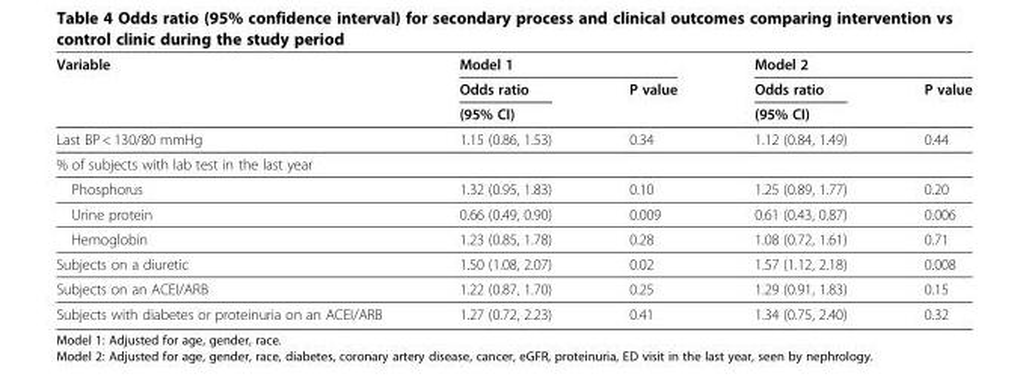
<table><thead><tr><td rowspan="2">Variable</td><td colspan="2">Model 1</td><td colspan="2">Model 2</td></tr><tr><td>Odds ratio</td><td>P value</td><td>Odds ratio</td><td>P value</td></tr></thead><tbody><tr><td></td><td>(95% CI)</td><td></td><td>(95% CI)</td><td></td></tr><tr><td>Last BP &lt; 130/80 mmHg</td><td>1.15 (0.86, 1.53)</td><td>0.34</td><td>1.12 (0.84, 1.49)</td><td>0.44</td></tr><tr><td colspan="5">% of subjects with lab test in the last year</td></tr><tr><td>Phosphorus</td><td>1.32 (0.95, 1.83)</td><td>0.10</td><td>1.25 (0.89, 1.77)</td><td>0.20</td></tr><tr><td>Urine protein</td><td>0.66 (0.49, 0.90)</td><td>0.009</td><td>0.61 (0.43, 0.87)</td><td>0.006</td></tr><tr><td>Hemoglobin</td><td>1.23 (0.85, 1.78)</td><td>0.28</td><td>1.08 (0.72, 1.61)</td><td>0.71</td></tr><tr><td>Subjects on a diuretic</td><td>1.50 (1.08, 2.07)</td><td>0.02</td><td>1.57 (1.12, 2.18)</td><td>0.008</td></tr><tr><td>Subjects on an ACEI/ARB</td><td>1.22 (0.87, 1.70)</td><td>0.25</td><td>1.29 (0.91, 1.83)</td><td>0.15</td></tr><tr><td>Subjects with diabetes or proteinuria on an ACEI/ARB</td><td>1.27 (0.72, 2.23)</td><td>0.41</td><td>1.34 (0.75, 2.40)</td><td>0.32</td></tr></tbody></table>